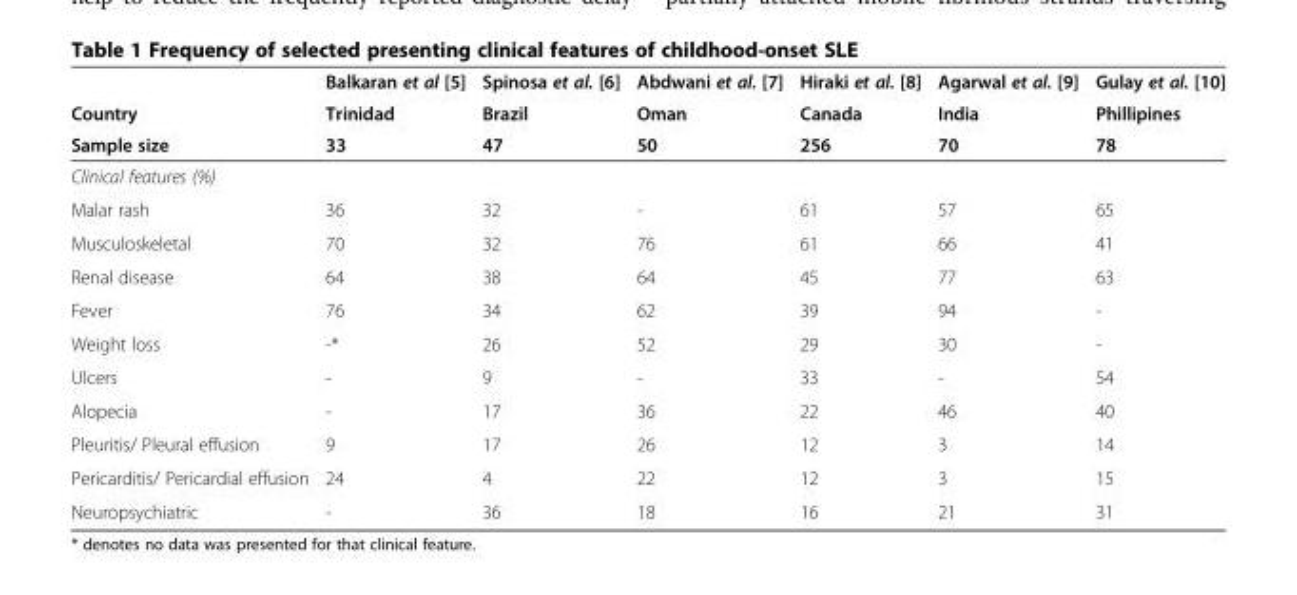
<table><thead><tr><td rowspan="3">Country Sample size</td><td rowspan="3">Balkaran et al [5] Trinidad 33</td><td rowspan="3">Spinosa et al. [6] Brazil 47</td><td rowspan="3">Abdwani et al. [7] Oman 50</td><td rowspan="3">Hiraki et al. [8] Canada 256</td><td rowspan="3">Agarwal et al. [9] India 70</td><td rowspan="3">Gulay et al. [10] Phillipines 78</td></tr><tr></tr><tr></tr></thead><tbody><tr><td colspan="7">Clinical features (%)</td></tr><tr><td>Malar rash</td><td>36</td><td>32</td><td>-</td><td>61</td><td>57</td><td>65</td></tr><tr><td>Musculoskeletal</td><td>70</td><td>32</td><td>76</td><td>61</td><td>66</td><td>41</td></tr><tr><td>Renal disease</td><td>64</td><td>38</td><td>64</td><td>45</td><td>77</td><td>63</td></tr><tr><td>Fever</td><td>76</td><td>34</td><td>62</td><td>39</td><td>94</td><td>-</td></tr><tr><td>Weight loss</td><td>-*</td><td>26</td><td>52</td><td>29</td><td>30</td><td>-</td></tr><tr><td>Ulcers</td><td>-</td><td>9</td><td>-</td><td>33</td><td>-</td><td>54</td></tr><tr><td>Alopecia</td><td>-</td><td>17</td><td>36</td><td>22</td><td>46</td><td>40</td></tr><tr><td>Pleuritis/ Pleural effusion</td><td>9</td><td>17</td><td>26</td><td>12</td><td>3</td><td>14</td></tr><tr><td>Pericarditis/ Pericardial effusion</td><td>24</td><td>4</td><td>22</td><td>12</td><td>3</td><td>15</td></tr><tr><td>Neuropsychiatric</td><td>-</td><td>36</td><td>18</td><td>16</td><td>21</td><td>31</td></tr></tbody></table>